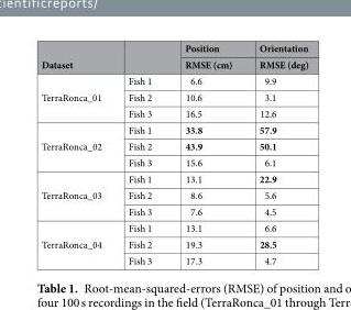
<table><thead><tr><td rowspan="2">Dataset</td><td rowspan="2"></td><td rowspan="2">Position RMSE (cm)</td><td rowspan="2">Orientation RMSE (deg)</td></tr><tr></tr></thead><tbody><tr><td rowspan="3">TerraRonca_01</td><td>Fish 1</td><td>6.6</td><td>9.9</td></tr><tr><td>Fish 2</td><td>10.6</td><td>3.1</td></tr><tr><td>Fish 3</td><td>16.5</td><td>12.6</td></tr><tr><td rowspan="3">TerraRonca_02</td><td>Fish 1</td><td>33.8</td><td>57.9</td></tr><tr><td>Fish 2</td><td>43.9</td><td>50.1</td></tr><tr><td>Fish 3</td><td>15.6</td><td>6.1</td></tr><tr><td rowspan="3">TerraRonca_03</td><td>Fish 1</td><td>13.1</td><td>22.9</td></tr><tr><td>Fish 2</td><td>8.6</td><td>5.6</td></tr><tr><td>Fish 3</td><td>7.6</td><td>4.5</td></tr><tr><td rowspan="3">TerraRonca_04</td><td>Fish 1</td><td>13.1</td><td>6.6</td></tr><tr><td>Fish 2</td><td>19.3</td><td>28.5</td></tr><tr><td>Fish 3</td><td>17.3</td><td>4.7</td></tr></tbody></table>